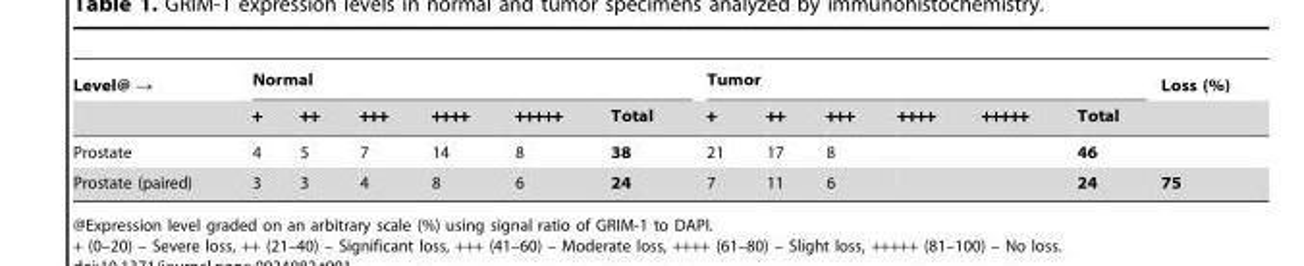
<table><thead><tr><td rowspan="2">Level@ →</td><td colspan="6">Normal</td><td colspan="6">Tumor</td><td rowspan="2">Loss (%)</td></tr><tr><td>+</td><td>++</td><td>+++</td><td>++++</td><td>+++++</td><td>Total</td><td>+</td><td>++</td><td>+++</td><td>++++</td><td>+++++</td><td>Total</td></tr></thead><tbody><tr><td>Prostate</td><td>4</td><td>5</td><td>7</td><td>14</td><td>8</td><td>38</td><td>21</td><td>17</td><td>8</td><td></td><td></td><td>46</td><td></td></tr><tr><td>Prostate (paired)</td><td>3</td><td>3</td><td>4</td><td>8</td><td>6</td><td>24</td><td>7</td><td>11</td><td>6</td><td></td><td></td><td>24</td><td>75</td></tr></tbody></table>